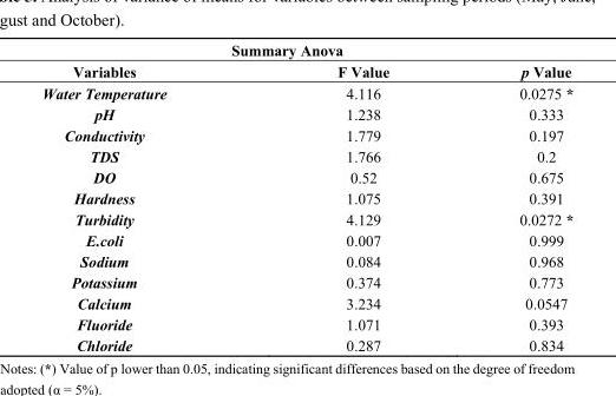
<table><thead><tr><td colspan="3">Summary Anova</td></tr><tr><td>Variables</td><td>F Value</td><td>p Value</td></tr></thead><tbody><tr><td>Water Temperature</td><td>4.116</td><td>0.0275 *</td></tr><tr><td>pH</td><td>1.238</td><td>0.333</td></tr><tr><td>Conductivity</td><td>1.779</td><td>0.197</td></tr><tr><td>TDS</td><td>1.766</td><td>0.2</td></tr><tr><td>DO</td><td>0.52</td><td>0.675</td></tr><tr><td>Hardness</td><td>1.075</td><td>0.391</td></tr><tr><td>Turbidity</td><td>4.129</td><td>0.0272 *</td></tr><tr><td>E.coli</td><td>0.007</td><td>0.999</td></tr><tr><td>Sodium</td><td>0.084</td><td>0.968</td></tr><tr><td>Potassium</td><td>0.374</td><td>0.773</td></tr><tr><td>Calcium</td><td>3.234</td><td>0.0547</td></tr><tr><td>Fluoride</td><td>1.071</td><td>0.393</td></tr><tr><td>Chloride</td><td>0.287</td><td>0.834</td></tr></tbody></table>